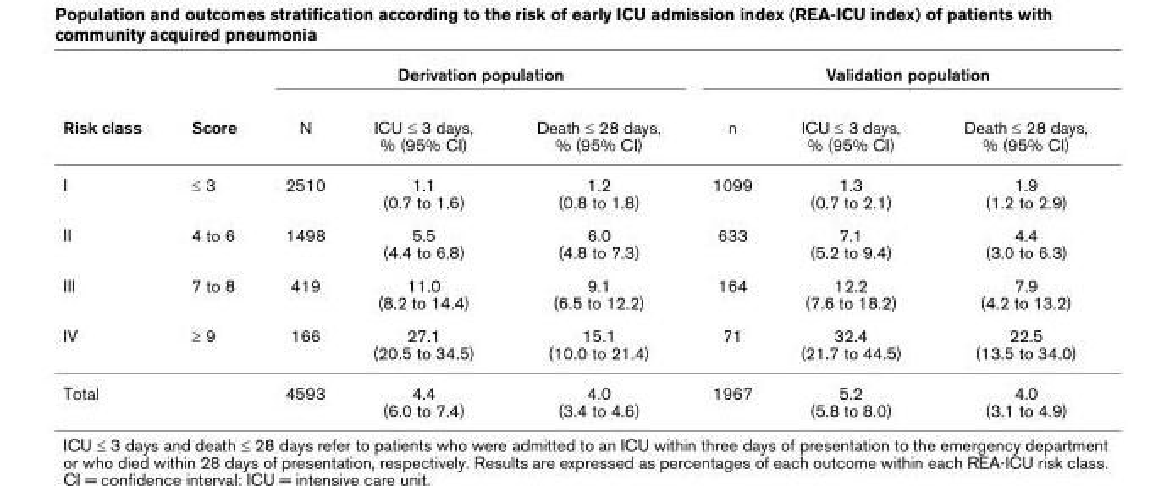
<table><thead><tr><td rowspan="2">Risk class</td><td rowspan="2">Score</td><td colspan="3">Derivation population</td><td colspan="3">Validation population</td></tr><tr><td>N</td><td>ICU ≤ 3 days, % (95% CI)</td><td>Death ≤ 28 days, % (95% CI)</td><td>n</td><td>ICU ≤ 3 days, % (95% CI)</td><td>Death ≤ 28 days, % (95% CI)</td></tr></thead><tbody><tr><td>I</td><td>≤ 3</td><td>2510</td><td>1.1 (0.7 to 1.6)</td><td>1.2 (0.8 to 1.8)</td><td>1099</td><td>1.3 (0.7 to 2.1)</td><td>1.9 (1.2 to 2.9)</td></tr><tr><td>II</td><td>4 to 6</td><td>1498</td><td>5.5 (4.4 to 6.8)</td><td>6.0 (4.8 to 7.3)</td><td>633</td><td>7.1 (5.2 to 9.4)</td><td>4.4 (3.0 to 6.3)</td></tr><tr><td>III</td><td>7 to 8</td><td>419</td><td>11.0 (8.2 to 14.4)</td><td>9.1 (6.5 to 12.2)</td><td>164</td><td>12.2 (7.6 to 18.2)</td><td>7.9 (4.2 to 13.2)</td></tr><tr><td>IV</td><td>≥ 9</td><td>166</td><td>27.1 (20.5 to 34.5)</td><td>15.1 (10.0 to 21.4)</td><td>71</td><td>32.4 (21.7 to 44.5)</td><td>22.5 (13.5 to 34.0)</td></tr><tr><td>Total</td><td></td><td>4593</td><td>4.4 (6.0 to 7.4)</td><td>4.0 (3.4 to 4.6)</td><td>1967</td><td>5.2 (5.8 to 8.0)</td><td>4.0 (3.1 to 4.9)</td></tr></tbody></table>